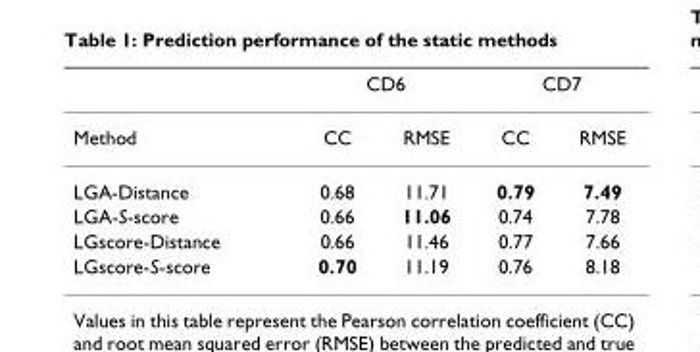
<table><thead><tr><td rowspan="2">Method</td><td colspan="2">CD6</td><td colspan="2">CD7</td></tr><tr><td>CC</td><td>RMSE</td><td>CC</td><td>RMSE</td></tr></thead><tbody><tr><td>LGA-Distance</td><td>0.68</td><td>11.71</td><td>0.79</td><td>7.49</td></tr><tr><td>LGA-S-score</td><td>0.66</td><td>11.06</td><td>0.74</td><td>7.78</td></tr><tr><td>LGscore-Distance</td><td>0.66</td><td>11.46</td><td>0.77</td><td>7.66</td></tr><tr><td>LGscore-S-score</td><td>0.70</td><td>11.19</td><td>0.76</td><td>8.18</td></tr></tbody></table>